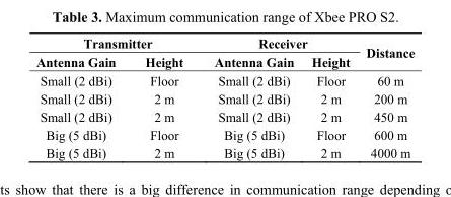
<table><thead><tr><td colspan="2">Transmitter</td><td colspan="2">Receiver</td><td rowspan="2">Distance</td></tr><tr><td>Antenna Gain</td><td>Height</td><td>Antenna Gain</td><td>Height</td></tr></thead><tbody><tr><td>Small (2 dBi)</td><td>Floor</td><td>Small (2 dBi)</td><td>Floor</td><td>60 m</td></tr><tr><td>Small (2 dBi)</td><td>2 m</td><td>Small (2 dBi)</td><td>2 m</td><td>200 m</td></tr><tr><td>Small (2 dBi)</td><td>2 m</td><td>Small (2 dBi)</td><td>2 m</td><td>450 m</td></tr><tr><td>Big (5 dBi)</td><td>Floor</td><td>Big (5 dBi)</td><td>Floor</td><td>600 m</td></tr><tr><td>Big (5 dBi)</td><td>2 m</td><td>Big (5 dBi)</td><td>2 m</td><td>4000 m</td></tr></tbody></table>